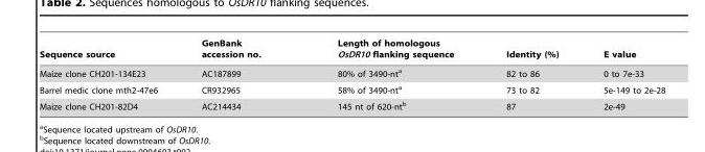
<table><thead><tr><td>Sequence source</td><td>GenBank accession no.</td><td>Length of homologous OsDR10 flanking sequence</td><td>Identity (%)</td><td>E value</td></tr></thead><tbody><tr><td>Maize clone CH201-134E23</td><td>AC187899</td><td>80% of 3490-nt<sup>a</sup></td><td>82 to 86</td><td>0 to 7e-33</td></tr><tr><td>Barrel medic clone mth2-47e6</td><td>CR932965</td><td>58% of 3490-nt<sup>a</sup></td><td>73 to 82</td><td>5e-149 to 2e-28</td></tr><tr><td>Maize clone CH201-82D4</td><td>AC214434</td><td>145 nt of 620-nt<sup>b</sup></td><td>87</td><td>2e-49</td></tr></tbody></table>